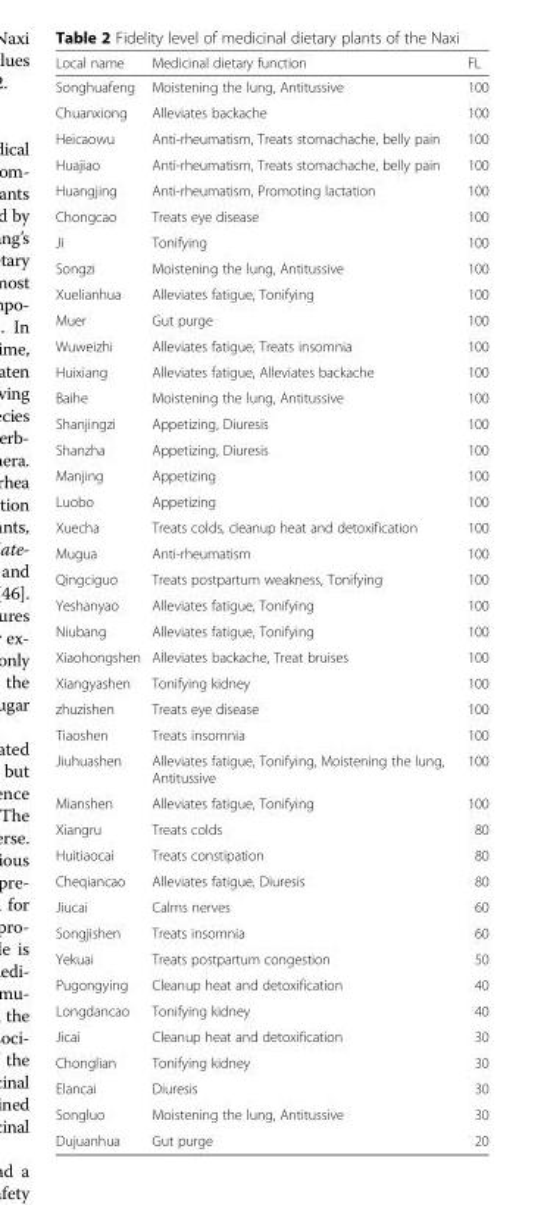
<table><thead><tr><td>Local name</td><td>Medicinal dietary function</td><td>FL</td></tr></thead><tbody><tr><td>Songhuafeng</td><td>Moistening the lung, Antitussive</td><td>100</td></tr><tr><td>Chuanxiong</td><td>Alleviates backache</td><td>100</td></tr><tr><td>Heicaowu</td><td>Anti-rheumatism, Treats stomachache, belly pain</td><td>100</td></tr><tr><td>Huajiao</td><td>Anti-rheumatism, Treats stomachache, belly pain</td><td>100</td></tr><tr><td>Huangjing</td><td>Anti-rheumatism, Promoting lactation</td><td>100</td></tr><tr><td>Chongcao</td><td>Treats eye disease</td><td>100</td></tr><tr><td>Ji</td><td>Tonifying</td><td>100</td></tr><tr><td>Songzi</td><td>Moistening the lung, Antitussive</td><td>100</td></tr><tr><td>Xuelianhua</td><td>Alleviates fatigue, Tonifying</td><td>100</td></tr><tr><td>Muer</td><td>Gut purge</td><td>100</td></tr><tr><td>Wuweizhi</td><td>Alleviates fatigue, Treats insomnia</td><td>100</td></tr><tr><td>Huixiang</td><td>Alleviates fatigue, Alleviates backache</td><td>100</td></tr><tr><td>Baihe</td><td>Moistening the lung, Antitussive</td><td>100</td></tr><tr><td>Shanjingzi</td><td>Appetizing, Diuresis</td><td>100</td></tr><tr><td>Shanzha</td><td>Appetizing, Diuresis</td><td>100</td></tr><tr><td>Manjing</td><td>Appetizing</td><td>100</td></tr><tr><td>Luobo</td><td>Appetizing</td><td>100</td></tr><tr><td>Xuecha</td><td>Treats colds, cleanup heat and detoxification</td><td>100</td></tr><tr><td>Mugua</td><td>Anti-rheumatism</td><td>100</td></tr><tr><td>Qingciguo</td><td>Treats postpartum weakness, Tonifying</td><td>100</td></tr><tr><td>Yeshanyao</td><td>Alleviates fatigue, Tonifying</td><td>100</td></tr><tr><td>Niubang</td><td>Alleviates fatigue, Tonifying</td><td>100</td></tr><tr><td>Xiaohongshen</td><td>Alleviates backache, Treat bruises</td><td>100</td></tr><tr><td>Xiangyashen</td><td>Tonifying kidney</td><td>100</td></tr><tr><td>zhuzishen</td><td>Treats eye disease</td><td>100</td></tr><tr><td>Tiaoshen</td><td>Treats insomnia</td><td>100</td></tr><tr><td>Jiuhuashen</td><td>Alleviates fatigue, Tonifying, Moistening the lung, Antitussive</td><td>100</td></tr><tr><td>Mianshen</td><td>Alleviates fatigue, Tonifying</td><td>100</td></tr><tr><td>Xiangru</td><td>Treats colds</td><td>80</td></tr><tr><td>Huitiaocai</td><td>Treats constipation</td><td>80</td></tr><tr><td>Cheqiancao</td><td>Alleviates fatigue, Diuresis</td><td>80</td></tr><tr><td>Jiucai</td><td>Calms nerves</td><td>60</td></tr><tr><td>Songjishen</td><td>Treats insomnia</td><td>60</td></tr><tr><td>Yekuai</td><td>Treats postpartum congestion</td><td>50</td></tr><tr><td>Pugongying</td><td>Cleanup heat and detoxification</td><td>40</td></tr><tr><td>Longdancao</td><td>Tonifying kidney</td><td>40</td></tr><tr><td>Jicai</td><td>Cleanup heat and detoxification</td><td>30</td></tr><tr><td>Chonglian</td><td>Tonifying kidney</td><td>30</td></tr><tr><td>Elancai</td><td>Diuresis</td><td>30</td></tr><tr><td>Songluo</td><td>Moistening the lung, Antitussive</td><td>30</td></tr><tr><td>Dujuanhua</td><td>Gut purge</td><td>20</td></tr></tbody></table>